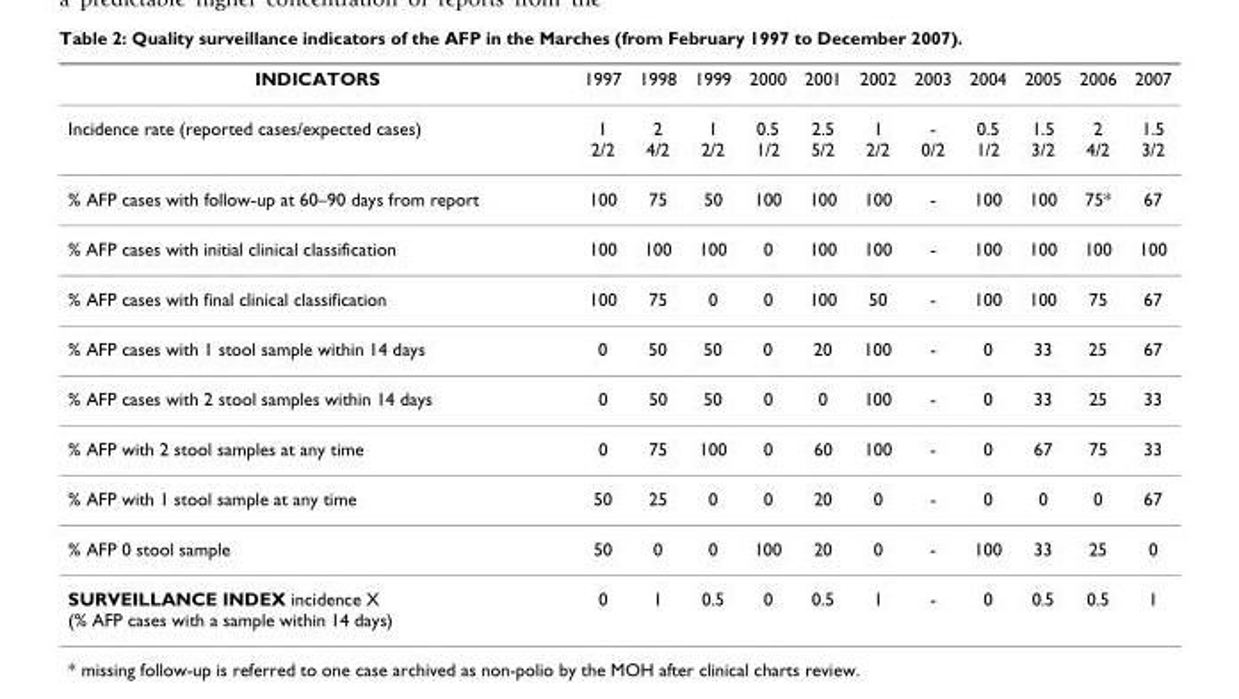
<table><thead><tr><td>INDICATORS</td><td>1997</td><td>1998</td><td>1999</td><td>2000</td><td>2001</td><td>2002</td><td>2003</td><td>2004</td><td>2005</td><td>2006</td><td>2007</td></tr></thead><tbody><tr><td>Incidence rate (reported cases/expected cases)</td><td>1 2/2</td><td>2 4/2</td><td>1 2/2</td><td>0.5 1/2</td><td>2.5 5/2</td><td>1 2/2</td><td>- 0/2</td><td>0.5 1/2</td><td>1.5 3/2</td><td>2 4/2</td><td>1.5 3/2</td></tr><tr><td>% AFP cases with follow-up at 60–90 days from report</td><td>100</td><td>75</td><td>50</td><td>100</td><td>100</td><td>100</td><td>-</td><td>100</td><td>100</td><td>75*</td><td>67</td></tr><tr><td>% AFP cases with initial clinical classification</td><td>100</td><td>100</td><td>100</td><td>0</td><td>100</td><td>100</td><td>-</td><td>100</td><td>100</td><td>100</td><td>100</td></tr><tr><td>% AFP cases with final clinical classification</td><td>100</td><td>75</td><td>0</td><td>0</td><td>100</td><td>50</td><td>-</td><td>100</td><td>100</td><td>75</td><td>67</td></tr><tr><td>% AFP cases with 1 stool sample within 14 days</td><td>0</td><td>50</td><td>50</td><td>0</td><td>20</td><td>100</td><td>-</td><td>0</td><td>33</td><td>25</td><td>67</td></tr><tr><td>% AFP cases with 2 stool samples within 14 days</td><td>0</td><td>50</td><td>50</td><td>0</td><td>0</td><td>100</td><td>-</td><td>0</td><td>33</td><td>25</td><td>33</td></tr><tr><td>% AFP with 2 stool samples at any time</td><td>0</td><td>75</td><td>100</td><td>0</td><td>60</td><td>100</td><td>-</td><td>0</td><td>67</td><td>75</td><td>33</td></tr><tr><td>% AFP with 1 stool sample at any time</td><td>50</td><td>25</td><td>0</td><td>0</td><td>20</td><td>0</td><td>-</td><td>0</td><td>0</td><td>0</td><td>67</td></tr><tr><td>% AFP 0 stool sample</td><td>50</td><td>0</td><td>0</td><td>100</td><td>20</td><td>0</td><td>-</td><td>100</td><td>33</td><td>25</td><td>0</td></tr><tr><td>SURVEILLANCE INDEX incidence X (% AFP cases with a sample within 14 days)</td><td>0</td><td>1</td><td>0.5</td><td>0</td><td>0.5</td><td>1</td><td>-</td><td>0</td><td>0.5</td><td>0.5</td><td>1</td></tr></tbody></table>